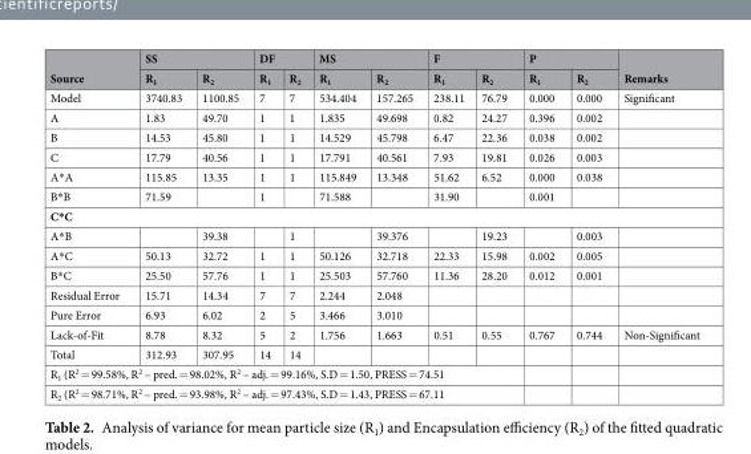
<table><thead><tr><td rowspan="2">Source</td><td colspan="2">SS</td><td colspan="2">DF</td><td colspan="2">MS</td><td colspan="2">F</td><td colspan="2">P</td><td rowspan="2">Remarks</td></tr><tr><td>R<sub>1</sub></td><td>R<sub>2</sub></td><td>R<sub>1</sub></td><td>R<sub>2</sub></td><td>R<sub>1</sub></td><td>R<sub>2</sub></td><td>R<sub>1</sub></td><td>R<sub>2</sub></td><td>R<sub>1</sub></td><td>R<sub>2</sub></td></tr></thead><tbody><tr><td>Model</td><td>3740.83</td><td>1100.85</td><td>7</td><td>7</td><td>534.404</td><td>157.265</td><td>238.11</td><td>76.79</td><td>0.000</td><td>0.000</td><td>Significant</td></tr><tr><td>A</td><td>1.83</td><td>49.70</td><td>1</td><td>1</td><td>1.835</td><td>49.698</td><td>0.82</td><td>24.27</td><td>0.396</td><td>0.002</td><td></td></tr><tr><td>B</td><td>14.53</td><td>45.80</td><td>1</td><td>1</td><td>14.529</td><td>45.798</td><td>6.47</td><td>22.36</td><td>0.038</td><td>0.002</td><td></td></tr><tr><td>C</td><td>17.79</td><td>40.56</td><td>1</td><td>1</td><td>17.791</td><td>40.561</td><td>7.93</td><td>19.81</td><td>0.026</td><td>0.003</td><td></td></tr><tr><td>A*A</td><td>115.85</td><td>13.35</td><td>1</td><td>1</td><td>115.849</td><td>13.348</td><td>51.62</td><td>6.52</td><td>0.000</td><td>0.038</td><td></td></tr><tr><td>B*B</td><td>71.59</td><td></td><td>1</td><td></td><td>71.588</td><td></td><td>31.90</td><td></td><td>0.001</td><td></td><td></td></tr><tr><td colspan="12">C*C</td></tr><tr><td>A*B</td><td></td><td>39.38</td><td></td><td>1</td><td></td><td>39.376</td><td></td><td>19.23</td><td></td><td>0.003</td><td></td></tr><tr><td>A*C</td><td>50.13</td><td>32.72</td><td>1</td><td>1</td><td>50.126</td><td>32.718</td><td>22.33</td><td>15.98</td><td>0.002</td><td>0.005</td><td></td></tr><tr><td>B*C</td><td>25.50</td><td>57.76</td><td>1</td><td>1</td><td>25.503</td><td>57.760</td><td>11.36</td><td>28.20</td><td>0.012</td><td>0.001</td><td></td></tr><tr><td>Residual Error</td><td>15.71</td><td>14.34</td><td>7</td><td>7</td><td>2.244</td><td>2.048</td><td></td><td></td><td></td><td></td><td></td></tr><tr><td>Pure Error</td><td>6.93</td><td>6.02</td><td>2</td><td>5</td><td>3.466</td><td>3.010</td><td></td><td></td><td></td><td></td><td></td></tr><tr><td>Lack-of-Fit</td><td>8.78</td><td>8.32</td><td>5</td><td>2</td><td>1.756</td><td>1.663</td><td>0.51</td><td>0.55</td><td>0.767</td><td>0.744</td><td>Non-Significant</td></tr><tr><td>Total</td><td>312.93</td><td>307.95</td><td>14</td><td>14</td><td></td><td></td><td></td><td></td><td></td><td></td><td></td></tr><tr><td colspan="12">R<sub>1</sub> (R<sup>2</sup> = 99.58%, R<sup>2</sup> – pred. = 98.02%, R<sup>2</sup> – adj. = 99.16%, S.D = 1.50, PRESS = 74.51</td></tr><tr><td colspan="9">R<sub>2</sub> (R<sup>2</sup> = 98.71%, R<sup>2</sup> – pred. = 93.98%, R<sup>2</sup> – adj. = 97.43%, S.D = 1.43, PRESS = 67.11</td><td></td><td></td><td></td></tr></tbody></table>